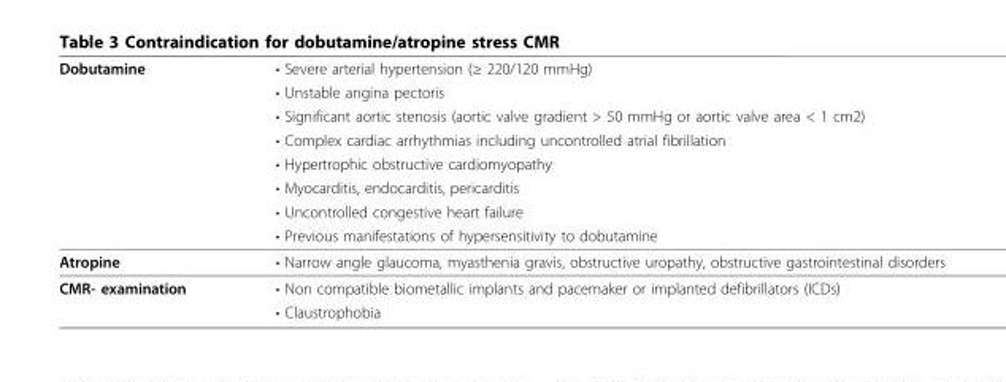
<table><thead><tr><td rowspan="8">Dobutamine</td><td rowspan="8">• Severe arterial hypertension (≥ 220/120 mmHg) • Unstable angina pectoris • Significant aortic stenosis (aortic valve gradient &gt; 50 mmHg or aortic valve area &lt; 1 cm2) • Complex cardiac arrhythmias including uncontrolled atrial fibrillation • Hypertrophic obstructive cardiomyopathy • Myocarditis, endocarditis, pericarditis • Uncontrolled congestive heart failure • Previous manifestations of hypersensitivity to dobutamine</td></tr><tr></tr><tr></tr><tr></tr><tr></tr><tr></tr><tr></tr><tr></tr></thead><tbody><tr><td>Atropine</td><td>• Narrow angle glaucoma, myasthenia gravis, obstructive uropathy, obstructive gastrointestinal disorders</td></tr><tr><td rowspan="2">CMR- examination</td><td>• Non compatible biometallic implants and pacemaker or implanted defibrillators (ICDs)</td></tr><tr><td>• Claustrophobia</td></tr></tbody></table>